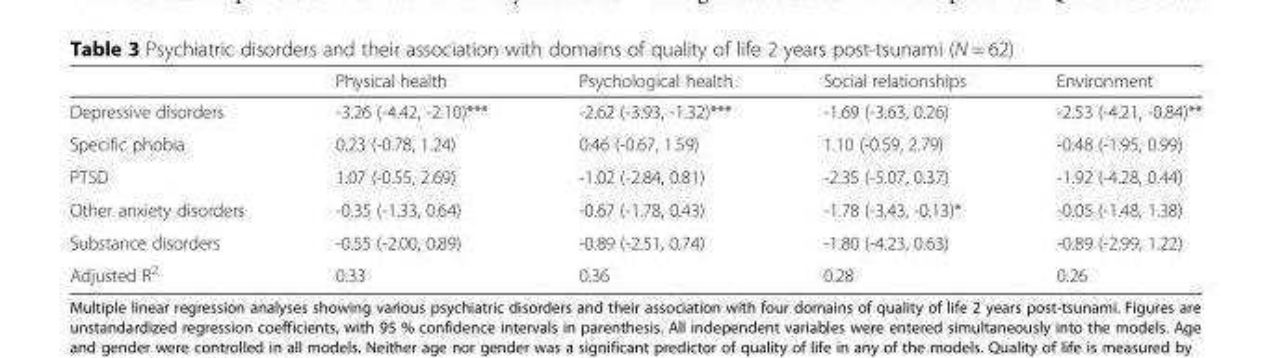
<table><thead><tr><td></td><td>Physical health</td><td>Psychological health</td><td>Social relationships</td><td>Environment</td></tr></thead><tbody><tr><td>Depressive disorders</td><td>-3.26 (-4.42, -2.10)***</td><td>-2.62 (-3.93, -1.32)***</td><td>-1.69 (-3.63, 0.26)</td><td>-2.53 (-4.21, -0.84)**</td></tr><tr><td>Specific phobia</td><td>0.23 (-0.78, 1.24)</td><td>0.46 (-0.67, 1.59)</td><td>1.10 (-0.59, 2.79)</td><td>-0.48 (-1.95, 0.99)</td></tr><tr><td>PTSD</td><td>1.07 (-0.55, 2.69)</td><td>-1.02 (-2.84, 0.81)</td><td>-2.35 (-5.07, 0.37)</td><td>-1.92 (-4.28, 0.44)</td></tr><tr><td>Other anxiety disorders</td><td>-0.35 (-1.33, 0.64)</td><td>-0.67 (-1.78, 0.43)</td><td>-1.78 (-3.43, -0.13)*</td><td>-0.05 (-1.48, 1.38)</td></tr><tr><td>Substance disorders</td><td>-0.55 (-2.00, 0.89)</td><td>-0.89 (-2.51, 0.74)</td><td>-1.80 (-4.23, 0.63)</td><td>-0.89 (-2.99, 1.22)</td></tr><tr><td>Adjusted R<sup>2</sup></td><td>0.33</td><td>0.36</td><td>0.28</td><td>0.26</td></tr></tbody></table>